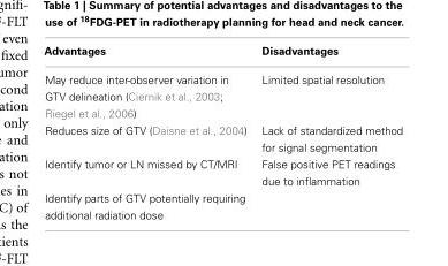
<table><thead><tr><td>Advantages</td><td>Disadvantages</td></tr></thead><tbody><tr><td>May reduce inter-observer variation in GTV delineation (Ciernik et al., 2003; Riegel et al., 2006)</td><td>Limited spatial resolution</td></tr><tr><td>Reduces size of GTV (Daisne et al., 2004)</td><td>Lack of standardized method for signal segmentation</td></tr><tr><td>Identify tumor or LN missed by CT/MRI</td><td>False positive PET readings due to inflammation</td></tr><tr><td>Identify parts of GTV potentially requiring additional radiation dose</td><td></td></tr></tbody></table>